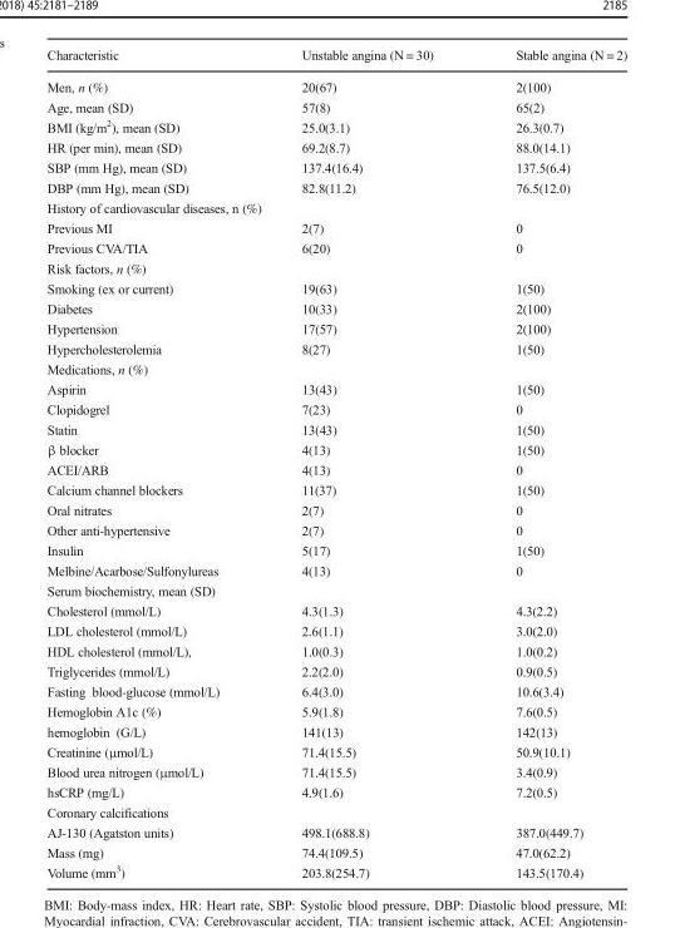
<table><thead><tr><td>Characteristic</td><td>Unstable angina (N = 30)</td><td>Stable angina (N = 2)</td></tr></thead><tbody><tr><td>Men, n (%)</td><td>20(67)</td><td>2(100)</td></tr><tr><td>Age, mean (SD)</td><td>57(8)</td><td>65(2)</td></tr><tr><td>BMI (kg/m<sup>2</sup>), mean (SD)</td><td>25.0(3.1)</td><td>26.3(0.7)</td></tr><tr><td>HR (per min), mean (SD)</td><td>69.2(8.7)</td><td>88.0(14.1)</td></tr><tr><td>SBP (mm Hg), mean (SD)</td><td>137.4(16.4)</td><td>137.5(6.4)</td></tr><tr><td>DBP (mm Hg), mean (SD)</td><td>82.8(11.2)</td><td>76.5(12.0)</td></tr><tr><td colspan="3">History of cardiovascular diseases, n (%)</td></tr><tr><td>Previous MI</td><td>2(7)</td><td>0</td></tr><tr><td>Previous CVA/TIA</td><td>6(20)</td><td>0</td></tr><tr><td colspan="3">Risk factors, n (%)</td></tr><tr><td>Smoking (ex or current)</td><td>19(63)</td><td>1(50)</td></tr><tr><td>Diabetes</td><td>10(33)</td><td>2(100)</td></tr><tr><td>Hypertension</td><td>17(57)</td><td>2(100)</td></tr><tr><td>Hypercholesterolemia</td><td>8(27)</td><td>1(50)</td></tr><tr><td colspan="3">Medications, n (%)</td></tr><tr><td>Aspirin</td><td>13(43)</td><td>1(50)</td></tr><tr><td>Clopidogrel</td><td>7(23)</td><td>0</td></tr><tr><td>Statin</td><td>13(43)</td><td>1(50)</td></tr><tr><td>β blocker</td><td>4(13)</td><td>1(50)</td></tr><tr><td>ACEI/ARB</td><td>4(13)</td><td>0</td></tr><tr><td>Calcium channel blockers</td><td>11(37)</td><td>1(50)</td></tr><tr><td>Oral nitrates</td><td>2(7)</td><td>0</td></tr><tr><td>Other anti-hypertensive</td><td>2(7)</td><td>0</td></tr><tr><td>Insulin</td><td>5(17)</td><td>1(50)</td></tr><tr><td>Melbine/Acarbose/Sulfonylureas</td><td>4(13)</td><td>0</td></tr><tr><td colspan="3">Serum biochemistry, mean (SD)</td></tr><tr><td>Cholesterol (mmol/L)</td><td>4.3(1.3)</td><td>4.3(2.2)</td></tr><tr><td>LDL cholesterol (mmol/L)</td><td>2.6(1.1)</td><td>3.0(2.0)</td></tr><tr><td>HDL cholesterol (mmol/L),</td><td>1.0(0.3)</td><td>1.0(0.2)</td></tr><tr><td>Triglycerides (mmol/L)</td><td>2.2(2.0)</td><td>0.9(0.5)</td></tr><tr><td>Fasting blood-glucose (mmol/L)</td><td>6.4(3.0)</td><td>10.6(3.4)</td></tr><tr><td>Hemoglobin A1c (%)</td><td>5.9(1.8)</td><td>7.6(0.5)</td></tr><tr><td>hemoglobin (G/L)</td><td>141(13)</td><td>142(13)</td></tr><tr><td>Creatinine (μmol/L)</td><td>71.4(15.5)</td><td>50.9(10.1)</td></tr><tr><td>Blood urea nitrogen (μmol/L)</td><td>71.4(15.5)</td><td>3.4(0.9)</td></tr><tr><td>hsCRP (mg/L)</td><td>4.9(1.6)</td><td>7.2(0.5)</td></tr><tr><td colspan="3">Coronary calcifications</td></tr><tr><td>AJ-130 (Agatston units)</td><td>498.1(688.8)</td><td>387.0(449.7)</td></tr><tr><td>Mass (mg)</td><td>74.4(109.5)</td><td>47.0(62.2)</td></tr><tr><td>Volume (mm<sup>3</sup>)</td><td>203.8(254.7)</td><td>143.5(170.4)</td></tr></tbody></table>